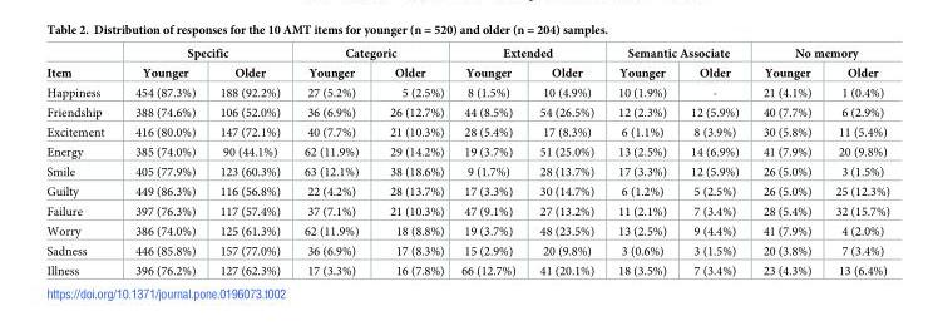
<table><thead><tr><td rowspan="2">Item</td><td colspan="2">Specific</td><td colspan="2">Categoric</td><td colspan="2">Extended</td><td colspan="2">Semantic Associate</td><td colspan="2">No memory</td></tr><tr><td>Younger</td><td>Older</td><td>Younger</td><td>Older</td><td>Younger</td><td>Older</td><td>Younger</td><td>Older</td><td>Younger</td><td>Older</td></tr></thead><tbody><tr><td>Happiness</td><td>454 (87.3%)</td><td>188 (92.2%)</td><td>27 (5.2%)</td><td>5 (2.5%)</td><td>8 (1.5%)</td><td>10 (4.9%)</td><td>10 (1.9%)</td><td>-</td><td>21 (4.1%)</td><td>1 (0.4%)</td></tr><tr><td>Friendship</td><td>388 (74.6%)</td><td>106 (52.0%)</td><td>36 (6.9%)</td><td>26 (12.7%)</td><td>44 (8.5%)</td><td>54 (26.5%)</td><td>12 (2.3%)</td><td>12 (5.9%)</td><td>40 (7.7%)</td><td>6 (2.9%)</td></tr><tr><td>Excitement</td><td>416 (80.0%)</td><td>147 (72.1%)</td><td>40 (7.7%)</td><td>21 (10.3%)</td><td>28 (5.4%)</td><td>17 (8.3%)</td><td>6 (1.1%)</td><td>8 (3.9%)</td><td>30 (5.8%)</td><td>11 (5.4%)</td></tr><tr><td>Energy</td><td>385 (74.0%)</td><td>90 (44.1%)</td><td>62 (11.9%)</td><td>29 (14.2%)</td><td>19 (3.7%)</td><td>51 (25.0%)</td><td>13 (2.5%)</td><td>14 (6.9%)</td><td>41 (7.9%)</td><td>20 (9.8%)</td></tr><tr><td>Smile</td><td>405 (77.9%)</td><td>123 (60.3%)</td><td>63 (12.1%)</td><td>38 (18.6%)</td><td>9 (1.7%)</td><td>28 (13.7%)</td><td>17 (3.3%)</td><td>12 (5.9%)</td><td>26 (5.0%)</td><td>3 (1.5%)</td></tr><tr><td>Guilty</td><td>449 (86.3%)</td><td>116 (56.8%)</td><td>22 (4.2%)</td><td>28 (13.7%)</td><td>17 (3.3%)</td><td>30 (14.7%)</td><td>6 (1.2%)</td><td>5 (2.5%)</td><td>26 (5.0%)</td><td>25 (12.3%)</td></tr><tr><td>Failure</td><td>397 (76.3%)</td><td>117 (57.4%)</td><td>37 (7.1%)</td><td>21 (10.3%)</td><td>47 (9.1%)</td><td>27 (13.2%)</td><td>11 (2.1%)</td><td>7 (3.4%)</td><td>28 (5.4%)</td><td>32 (15.7%)</td></tr><tr><td>Worry</td><td>386 (74.0%)</td><td>125 (61.3%)</td><td>62 (11.9%)</td><td>18 (8.8%)</td><td>19 (3.7%)</td><td>48 (23.5%)</td><td>13 (2.5%)</td><td>9 (4.4%)</td><td>41 (7.9%)</td><td>4 (2.0%)</td></tr><tr><td>Sadness</td><td>446 (85.8%)</td><td>157 (77.0%)</td><td>36 (6.9%)</td><td>17 (8.3%)</td><td>15 (2.9%)</td><td>20 (9.8%)</td><td>3 (0.6%)</td><td>3 (1.5%)</td><td>20 (3.8%)</td><td>7 (3.4%)</td></tr><tr><td>Illness</td><td>396 (76.2%)</td><td>127 (62.3%)</td><td>17 (3.3%)</td><td>16 (7.8%)</td><td>66 (12.7%)</td><td>41 (20.1%)</td><td>18 (3.5%)</td><td>7 (3.4%)</td><td>23 (4.3%)</td><td>13 (6.4%)</td></tr></tbody></table>